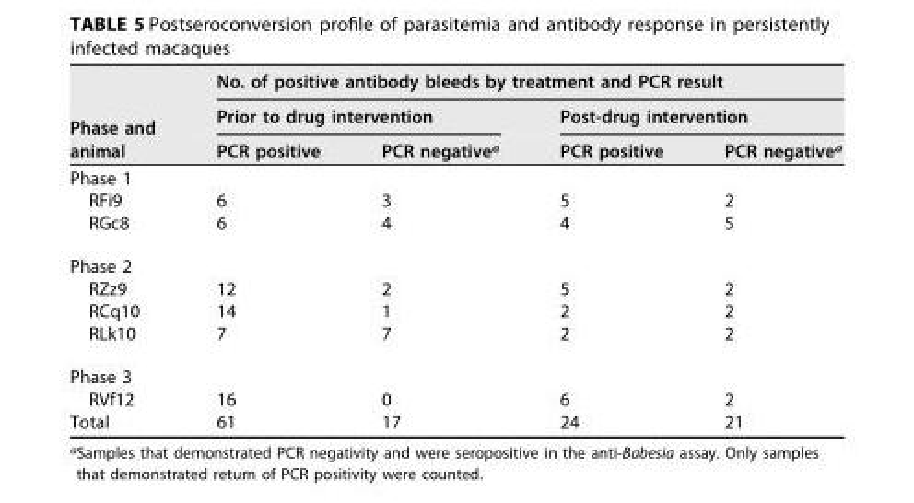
<table><thead><tr><td rowspan="3">Phase and animal</td><td colspan="4">No. of positive antibody bleeds by treatment and PCR result</td></tr><tr><td colspan="2">Prior to drug intervention</td><td colspan="2">Post-drug intervention</td></tr><tr><td>PCR positive</td><td>PCR negative<sup>a</sup></td><td>PCR positive</td><td>PCR negative<sup>a</sup></td></tr></thead><tbody><tr><td colspan="5">Phase 1</td></tr><tr><td>RFi9</td><td>6</td><td>3</td><td>5</td><td>2</td></tr><tr><td>RGc8</td><td>6</td><td>4</td><td>4</td><td>5</td></tr><tr><td colspan="5">Phase 2</td></tr><tr><td>RZz9</td><td>12</td><td>2</td><td>5</td><td>2</td></tr><tr><td>RCq10</td><td>14</td><td>1</td><td>2</td><td>2</td></tr><tr><td>RLk10</td><td>7</td><td>7</td><td>2</td><td>2</td></tr><tr><td colspan="5">Phase 3</td></tr><tr><td>RVf12</td><td>16</td><td>0</td><td>6</td><td>2</td></tr><tr><td>Total</td><td>61</td><td>17</td><td>24</td><td>21</td></tr></tbody></table>